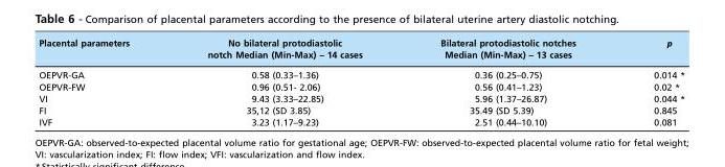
<table><thead><tr><td>Placental parameters</td><td>No bilateral protodiastolic notch Median (Min-Max) – 14 cases</td><td>Bilateral protodiastolic notches Median (Min-Max) – 13 cases</td><td>p</td></tr></thead><tbody><tr><td>OEPVR-GA</td><td>0.58 (0.33–1.36)</td><td>0.36 (0.25–0.75)</td><td>0.014 *</td></tr><tr><td>OEPVR-FW</td><td>0.96 (0.51- 2.06)</td><td>0.56 (0.41–1.23)</td><td>0.02 *</td></tr><tr><td>VI</td><td>9.43 (3.33–22.85)</td><td>5.96 (1.37–26.87)</td><td>0.044 *</td></tr><tr><td>FI</td><td>35,12 (SD 3.85)</td><td>35.49 (SD 5.39)</td><td>0.845</td></tr><tr><td>IVF</td><td>3.23 (1.17–9.23)</td><td>2.51 (0.44–10.10)</td><td>0.081</td></tr></tbody></table>